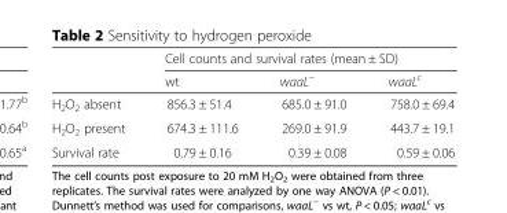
<table><thead><tr><td rowspan="2"></td><td colspan="3">Cell counts and survival rates (mean ± SD)</td></tr><tr><td>wt</td><td>waaL<sup>−</sup></td><td>waaL<sup>c</sup></td></tr></thead><tbody><tr><td>H<sub>2</sub>O<sub>2</sub> absent</td><td>856.3 ± 51.4</td><td>685.0 ± 91.0</td><td>758.0 ± 69.4</td></tr><tr><td>H<sub>2</sub>O<sub>2</sub> present</td><td>674.3 ± 111.6</td><td>269.0 ± 91.9</td><td>443.7 ± 19.1</td></tr><tr><td>Survival rate</td><td>0.79 ± 0.16</td><td>0.39 ± 0.08</td><td>0.59 ± 0.06</td></tr></tbody></table>